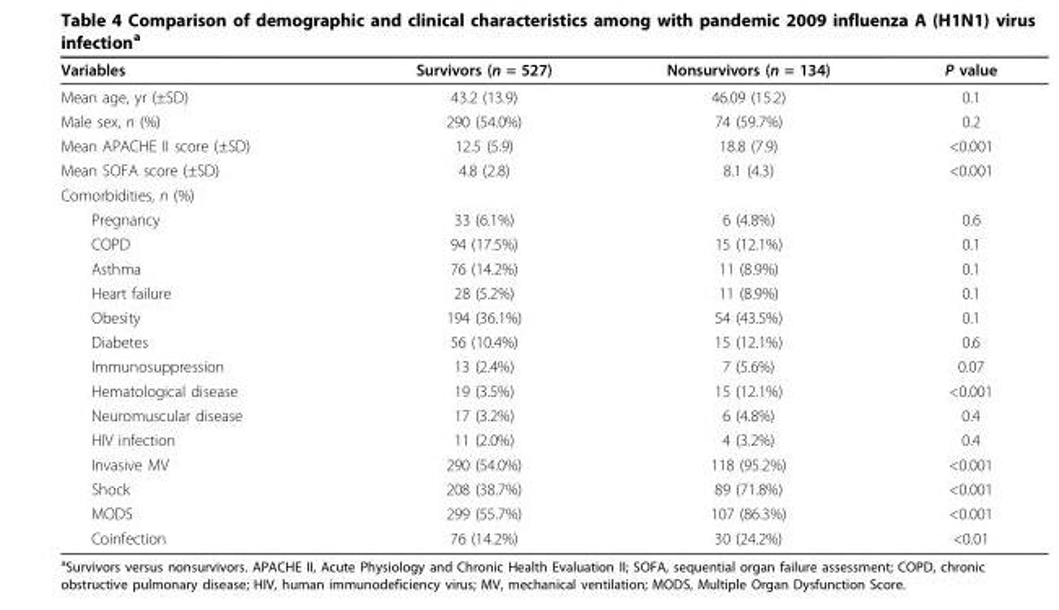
<table><thead><tr><td>Variables</td><td>Survivors (n = 527)</td><td>Nonsurvivors (n = 134)</td><td>P value</td></tr></thead><tbody><tr><td>Mean age, yr (±SD)</td><td>43.2 (13.9)</td><td>46.09 (15.2)</td><td>0.1</td></tr><tr><td>Male sex, n (%)</td><td>290 (54.0%)</td><td>74 (59.7%)</td><td>0.2</td></tr><tr><td>Mean APACHE II score (±SD)</td><td>12.5 (5.9)</td><td>18.8 (7.9)</td><td>&lt;0.001</td></tr><tr><td>Mean SOFA score (±SD)</td><td>4.8 (2.8)</td><td>8.1 (4.3)</td><td>&lt;0.001</td></tr><tr><td colspan="4">Comorbidities, n (%)</td></tr><tr><td>Pregnancy</td><td>33 (6.1%)</td><td>6 (4.8%)</td><td>0.6</td></tr><tr><td>COPD</td><td>94 (17.5%)</td><td>15 (12.1%)</td><td>0.1</td></tr><tr><td>Asthma</td><td>76 (14.2%)</td><td>11 (8.9%)</td><td>0.1</td></tr><tr><td>Heart failure</td><td>28 (5.2%)</td><td>11 (8.9%)</td><td>0.1</td></tr><tr><td>Obesity</td><td>194 (36.1%)</td><td>54 (43.5%)</td><td>0.1</td></tr><tr><td>Diabetes</td><td>56 (10.4%)</td><td>15 (12.1%)</td><td>0.6</td></tr><tr><td>Immunosuppression</td><td>13 (2.4%)</td><td>7 (5.6%)</td><td>0.07</td></tr><tr><td>Hematological disease</td><td>19 (3.5%)</td><td>15 (12.1%)</td><td>&lt;0.001</td></tr><tr><td>Neuromuscular disease</td><td>17 (3.2%)</td><td>6 (4.8%)</td><td>0.4</td></tr><tr><td>HIV infection</td><td>11 (2.0%)</td><td>4 (3.2%)</td><td>0.4</td></tr><tr><td>Invasive MV</td><td>290 (54.0%)</td><td>118 (95.2%)</td><td>&lt;0.001</td></tr><tr><td>Shock</td><td>208 (38.7%)</td><td>89 (71.8%)</td><td>&lt;0.001</td></tr><tr><td>MODS</td><td>299 (55.7%)</td><td>107 (86.3%)</td><td>&lt;0.001</td></tr><tr><td>Coinfection</td><td>76 (14.2%)</td><td>30 (24.2%)</td><td>&lt;0.01</td></tr></tbody></table>